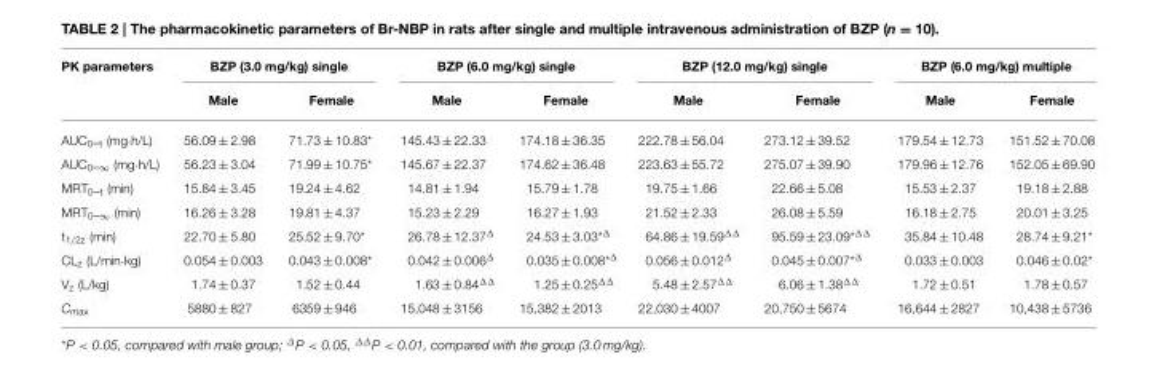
<table><thead><tr><td rowspan="2">PK parameters</td><td colspan="2">BZP (3.0 mg/kg) single</td><td colspan="2">BZP (6.0 mg/kg) single</td><td colspan="2">BZP (12.0 mg/kg) single</td><td colspan="2">BZP (6.0 mg/kg) multiple</td></tr><tr><td>Male</td><td>Female</td><td>Male</td><td>Female</td><td>Male</td><td>Female</td><td>Male</td><td>Female</td></tr></thead><tbody><tr><td>AUC<sub>0–t</sub> (mg·h/L)</td><td>56.09 ± 2.98</td><td>71.73 ± 10.83*</td><td>145.43 ± 22.33</td><td>174.18 ± 36.35</td><td>222.78 ± 56.04</td><td>273.12 ± 39.52</td><td>179.54 ± 12.73</td><td>151.52 ± 70.08</td></tr><tr><td>AUC<sub>0–∞</sub> (mg·h/L)</td><td>56.23 ± 3.04</td><td>71.99 ± 10.75*</td><td>145.67 ± 22.37</td><td>174.62 ± 36.48</td><td>223.63 ± 55.72</td><td>275.07 ± 39.90</td><td>179.96 ± 12.76</td><td>152.05 ± 69.90</td></tr><tr><td>MRT<sub>0–t</sub> (min)</td><td>15.84 ± 3.45</td><td>19.24 ± 4.62</td><td>14.81 ± 1.94</td><td>15.79 ± 1.78</td><td>19.75 ± 1.66</td><td>22.66 ± 5.08</td><td>15.53 ± 2.37</td><td>19.18 ± 2.88</td></tr><tr><td>MRT<sub>0–∞</sub> (min)</td><td>16.26 ± 3.28</td><td>19.81 ± 4.37</td><td>15.23 ± 2.29</td><td>16.27 ± 1.93</td><td>21.52 ± 2.33</td><td>26.08 ± 5.59</td><td>16.18 ± 2.75</td><td>20.01 ± 3.25</td></tr><tr><td>t<sub>1/2z</sub> (min)</td><td>22.70 ± 5.80</td><td>25.52 ± 9.70*</td><td>26.78 ± 12.37<sup>Δ</sup></td><td>24.53 ± 3.03<sup>*Δ</sup></td><td>64.86 ± 19.59<sup>ΔΔ</sup></td><td>95.59 ± 23.09<sup>*ΔΔ</sup></td><td>35.84 ± 10.48</td><td>28.74 ± 9.21*</td></tr><tr><td>CL<sub>z</sub> (L/min·kg)</td><td>0.054 ± 0.003</td><td>0.043 ± 0.008*</td><td>0.042 ± 0.006<sup>Δ</sup></td><td>0.035 ± 0.008<sup>*Δ</sup></td><td>0.056 ± 0.012<sup>Δ</sup></td><td>0.045 ± 0.007<sup>*Δ</sup></td><td>0.033 ± 0.003</td><td>0.046 ± 0.02*</td></tr><tr><td>V<sub>z</sub> (L/kg)</td><td>1.74 ± 0.37</td><td>1.52 ± 0.44</td><td>1.63 ± 0.84<sup>ΔΔ</sup></td><td>1.25 ± 0.25<sup>ΔΔ</sup></td><td>5.48 ± 2.57<sup>ΔΔ</sup></td><td>6.06 ± 1.38<sup>ΔΔ</sup></td><td>1.72 ± 0.51</td><td>1.78 ± 0.57</td></tr><tr><td>C<sub>max</sub></td><td>5880 ± 827</td><td>6359 ± 946</td><td>15‚048 ± 3156</td><td>15‚382 ± 2013</td><td>22‚030 ± 4007</td><td>20‚750 ± 5674</td><td>16‚644 ± 2827</td><td>10‚438 ± 5736</td></tr></tbody></table>